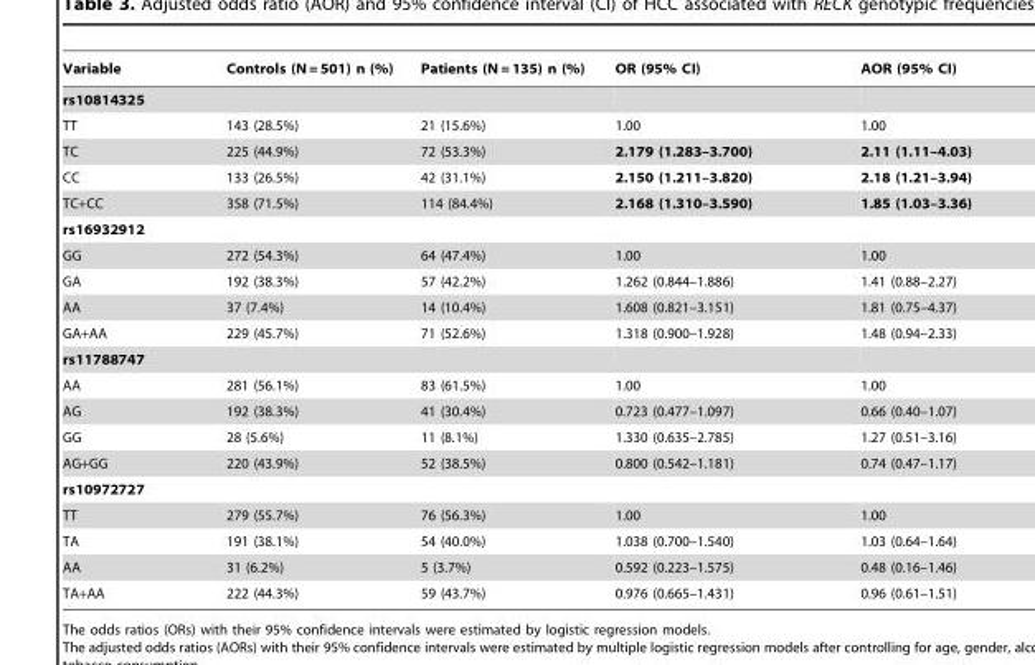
<table><thead><tr><td>Variable</td><td>Controls (N = 501) n (%)</td><td>Patients (N = 135) n (%)</td><td>OR (95% CI)</td><td>AOR (95% CI)</td></tr></thead><tbody><tr><td colspan="5">rs10814325</td></tr><tr><td>TT</td><td>143 (28.5%)</td><td>21 (15.6%)</td><td>1.00</td><td>1.00</td></tr><tr><td>TC</td><td>225 (44.9%)</td><td>72 (53.3%)</td><td>2.179 (1.283–3.700)</td><td>2.11 (1.11–4.03)</td></tr><tr><td>CC</td><td>133 (26.5%)</td><td>42 (31.1%)</td><td>2.150 (1.211–3.820)</td><td>2.18 (1.21–3.94)</td></tr><tr><td>TC+CC</td><td>358 (71.5%)</td><td>114 (84.4%)</td><td>2.168 (1.310–3.590)</td><td>1.85 (1.03–3.36)</td></tr><tr><td colspan="5">rs16932912</td></tr><tr><td>GG</td><td>272 (54.3%)</td><td>64 (47.4%)</td><td>1.00</td><td>1.00</td></tr><tr><td>GA</td><td>192 (38.3%)</td><td>57 (42.2%)</td><td>1.262 (0.844–1.886)</td><td>1.41 (0.88–2.27)</td></tr><tr><td>AA</td><td>37 (7.4%)</td><td>14 (10.4%)</td><td>1.608 (0.821–3.151)</td><td>1.81 (0.75–4.37)</td></tr><tr><td>GA+AA</td><td>229 (45.7%)</td><td>71 (52.6%)</td><td>1.318 (0.900–1.928)</td><td>1.48 (0.94–2.33)</td></tr><tr><td colspan="5">rs11788747</td></tr><tr><td>AA</td><td>281 (56.1%)</td><td>83 (61.5%)</td><td>1.00</td><td>1.00</td></tr><tr><td>AG</td><td>192 (38.3%)</td><td>41 (30.4%)</td><td>0.723 (0.477–1.097)</td><td>0.66 (0.40–1.07)</td></tr><tr><td>GG</td><td>28 (5.6%)</td><td>11 (8.1%)</td><td>1.330 (0.635–2.785)</td><td>1.27 (0.51–3.16)</td></tr><tr><td>AG+GG</td><td>220 (43.9%)</td><td>52 (38.5%)</td><td>0.800 (0.542–1.181)</td><td>0.74 (0.47–1.17)</td></tr><tr><td colspan="5">rs10972727</td></tr><tr><td>TT</td><td>279 (55.7%)</td><td>76 (56.3%)</td><td>1.00</td><td>1.00</td></tr><tr><td>TA</td><td>191 (38.1%)</td><td>54 (40.0%)</td><td>1.038 (0.700–1.540)</td><td>1.03 (0.64–1.64)</td></tr><tr><td>AA</td><td>31 (6.2%)</td><td>5 (3.7%)</td><td>0.592 (0.223–1.575)</td><td>0.48 (0.16–1.46)</td></tr><tr><td>TA+AA</td><td>222 (44.3%)</td><td>59 (43.7%)</td><td>0.976 (0.665–1.431)</td><td>0.96 (0.61–1.51)</td></tr></tbody></table>